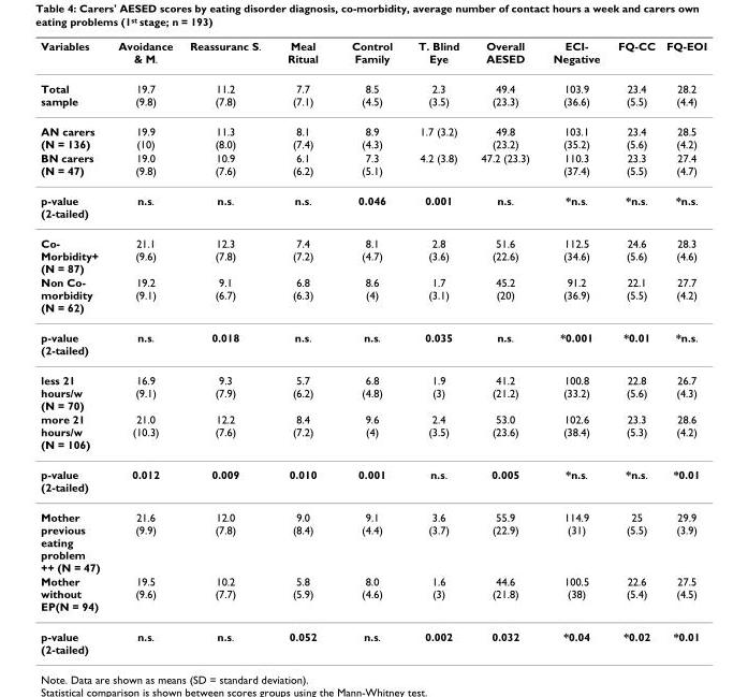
<table><thead><tr><td>Variables</td><td>Avoidance &amp; M.</td><td>Reassuranc S.</td><td>Meal Ritual</td><td>Control Family</td><td>T. Blind Eye</td><td>Overall AESED</td><td>ECI- Negative</td><td>FQ-CC</td><td>FQ-EOI</td></tr></thead><tbody><tr><td>Total sample</td><td>19.7 (9.8)</td><td>11.2 (7.8)</td><td>7.7 (7.1)</td><td>8.5 (4.5)</td><td>2.3 (3.5)</td><td>49.4 (23.3)</td><td>103.9 (36.6)</td><td>23.4 (5.5)</td><td>28.2 (4.4)</td></tr><tr><td>AN carers (N = 136)</td><td>19.9 (10)</td><td>11.3 (8.0)</td><td>8.1 (7.4)</td><td>8.9 (4.3)</td><td>1.7 (3.2)</td><td>49.8 (23.2)</td><td>103.1 (35.2)</td><td>23.4 (5.6)</td><td>28.5 (4.2)</td></tr><tr><td>BN carers (N = 47)</td><td>19.0 (9.8)</td><td>10.9 (7.6)</td><td>6.1 (6.2)</td><td>7.3 (5.1)</td><td>4.2 (3.8)</td><td>47.2 (23.3)</td><td>110.3 (37.4)</td><td>23.3 (5.5)</td><td>27.4 (4.7)</td></tr><tr><td>p-value (2-tailed)</td><td>n.s.</td><td>n.s.</td><td>n.s.</td><td>0.046</td><td>0.001</td><td>n.s.</td><td>*n.s.</td><td>*n.s.</td><td>*n.s.</td></tr><tr><td>Co- Morbidity+ (N = 87)</td><td>21.1 (9.6)</td><td>12.3 (7.8)</td><td>7.4 (7.2)</td><td>8.1 (4.7)</td><td>2.8 (3.6)</td><td>51.6 (22.6)</td><td>112.5 (34.6)</td><td>24.6 (5.6)</td><td>28.3 (4.6)</td></tr><tr><td>Non Co- morbidity (N = 62)</td><td>19.2 (9.1)</td><td>9.1 (6.7)</td><td>6.8 (6.3)</td><td>8.6 (4)</td><td>1.7 (3.1)</td><td>45.2 (20)</td><td>91.2 (36.9)</td><td>22.1 (5.5)</td><td>27.7 (4.2)</td></tr><tr><td>p-value (2-tailed)</td><td>n.s.</td><td>0.018</td><td>n.s.</td><td>n.s.</td><td>0.035</td><td>n.s.</td><td>*0.001</td><td>*0.01</td><td>*n.s.</td></tr><tr><td>less 21 hours/w (N = 70)</td><td>16.9 (9.1)</td><td>9.3 (7.9)</td><td>5.7 (6.2)</td><td>6.8 (4.8)</td><td>1.9 (3)</td><td>41.2 (21.2)</td><td>100.8 (33.2)</td><td>22.8 (5.6)</td><td>26.7 (4.3)</td></tr><tr><td>more 21 hours/w (N = 106)</td><td>21.0 (10.3)</td><td>12.2 (7.6)</td><td>8.4 (7.2)</td><td>9.6 (4)</td><td>2.4 (3.5)</td><td>53.0 (23.6)</td><td>102.6 (38.4)</td><td>23.3 (5.3)</td><td>28.6 (4.2)</td></tr><tr><td>p-value (2-tailed)</td><td>0.012</td><td>0.009</td><td>0.010</td><td>0.001</td><td>n.s.</td><td>0.005</td><td>*n.s.</td><td>*n.s.</td><td>*0.01</td></tr><tr><td>Mother previous eating problem ++ (N = 47)</td><td>21.6 (9.9)</td><td>12.0 (7.8)</td><td>9.0 (8.4)</td><td>9.1 (4.4)</td><td>3.6 (3.7)</td><td>55.9 (22.9)</td><td>114.9 (31)</td><td>25 (5.5)</td><td>29.9 (3.9)</td></tr><tr><td>Mother without EP(N = 94)</td><td>19.5 (9.6)</td><td>10.2 (7.7)</td><td>5.8 (5.9)</td><td>8.0 (4.6)</td><td>1.6 (3)</td><td>44.6 (21.8)</td><td>100.5 (38)</td><td>22.6 (5.4)</td><td>27.5 (4.5)</td></tr><tr><td>p-value (2-tailed)</td><td>n.s.</td><td>n.s.</td><td>0.052</td><td>n.s.</td><td>0.002</td><td>0.032</td><td>*0.04</td><td>*0.02</td><td>*0.01</td></tr></tbody></table>